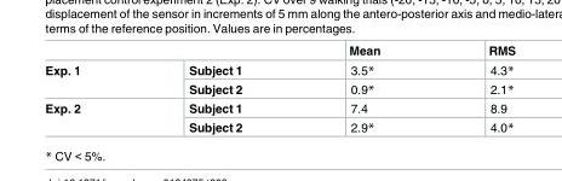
<table><thead><tr><td></td><td></td><td>Mean</td><td>RMS</td></tr></thead><tbody><tr><td rowspan="2">Exp. 1</td><td>Subject 1</td><td>3.5*</td><td>4.3*</td></tr><tr><td>Subject 2</td><td>0.9*</td><td>2.1*</td></tr><tr><td rowspan="2">Exp. 2</td><td>Subject 1</td><td>7.4</td><td>8.9</td></tr><tr><td>Subject 2</td><td>2.9*</td><td>4.0*</td></tr></tbody></table>